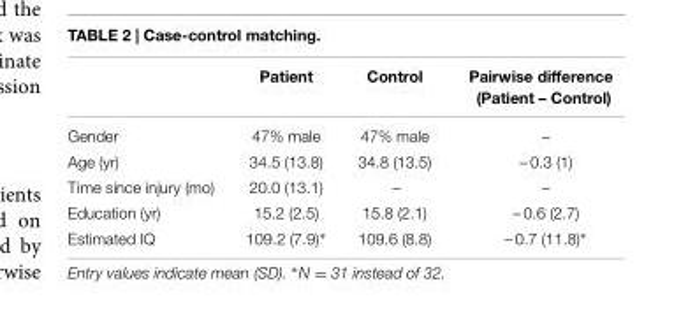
<table><thead><tr><td></td><td>Patient</td><td>Control</td><td>Pairwise difference (Patient – Control)</td></tr></thead><tbody><tr><td>Gender</td><td>47% male</td><td>47% male</td><td>–</td></tr><tr><td>Age (yr)</td><td>34.5 (13.8)</td><td>34.8 (13.5)</td><td>– 0.3 (1)</td></tr><tr><td>Time since injury (mo)</td><td>20.0 (13.1)</td><td>–</td><td>–</td></tr><tr><td>Education (yr)</td><td>15.2 (2.5)</td><td>15.8 (2.1)</td><td>– 0.6 (2.7)</td></tr><tr><td>Estimated IQ</td><td>109.2 (7.9)∗</td><td>109.6 (8.8)</td><td>– 0.7 (11.8)∗</td></tr></tbody></table>